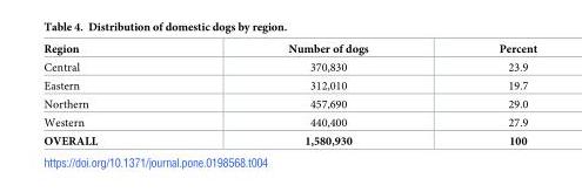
<table><thead><tr><td>Region</td><td>Number of dogs</td><td>Percent</td></tr></thead><tbody><tr><td>Central</td><td>370,830</td><td>23.9</td></tr><tr><td>Eastern</td><td>312,010</td><td>19.7</td></tr><tr><td>Northern</td><td>457,690</td><td>29.0</td></tr><tr><td>Western</td><td>440,400</td><td>27.9</td></tr><tr><td>OVERALL</td><td>1,580,930</td><td>100</td></tr></tbody></table>